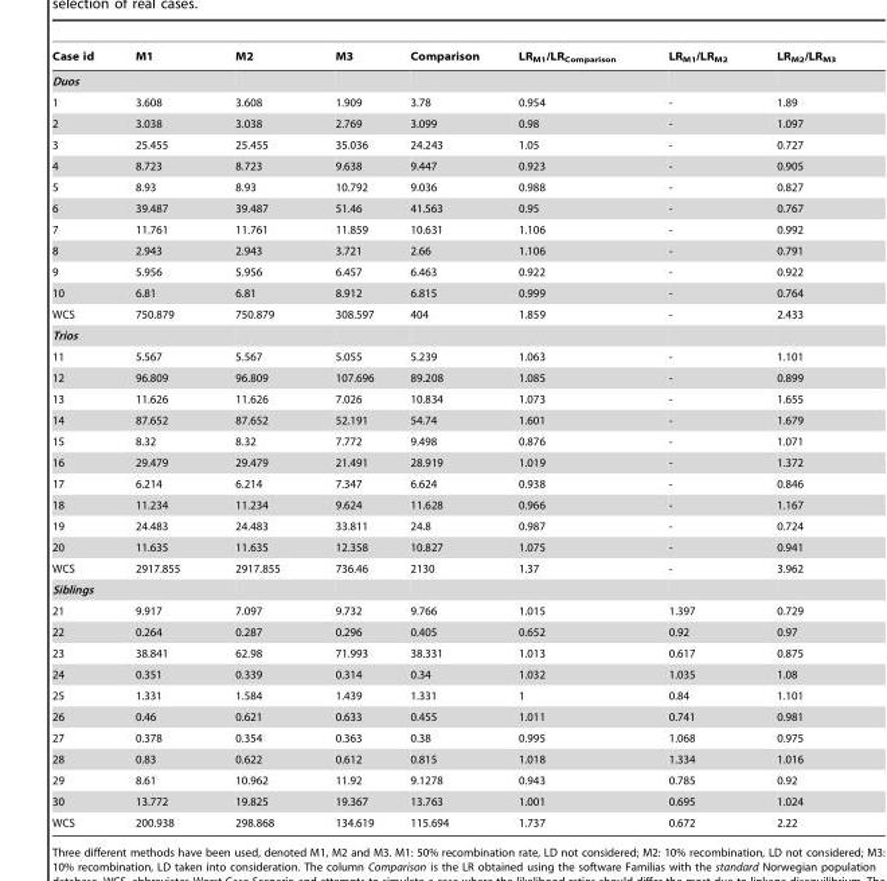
<table><thead><tr><td>Case id</td><td>M1</td><td>M2</td><td>M3</td><td>Comparison</td><td>LR<sub>M1</sub>/LR<sub>Comparison</sub></td><td>LR<sub>M1</sub>/LR<sub>M2</sub></td><td>LR<sub>M2</sub>/LR<sub>M3</sub></td></tr></thead><tbody><tr><td colspan="8">Duos</td></tr><tr><td>1</td><td>3.608</td><td>3.608</td><td>1.909</td><td>3.78</td><td>0.954</td><td>-</td><td>1.89</td></tr><tr><td>2</td><td>3.038</td><td>3.038</td><td>2.769</td><td>3.099</td><td>0.98</td><td>-</td><td>1.097</td></tr><tr><td>3</td><td>25.455</td><td>25.455</td><td>35.036</td><td>24.243</td><td>1.05</td><td>-</td><td>0.727</td></tr><tr><td>4</td><td>8.723</td><td>8.723</td><td>9.638</td><td>9.447</td><td>0.923</td><td>-</td><td>0.905</td></tr><tr><td>5</td><td>8.93</td><td>8.93</td><td>10.792</td><td>9.036</td><td>0.988</td><td>-</td><td>0.827</td></tr><tr><td>6</td><td>39.487</td><td>39.487</td><td>51.46</td><td>41.563</td><td>0.95</td><td>-</td><td>0.767</td></tr><tr><td>7</td><td>11.761</td><td>11.761</td><td>11.859</td><td>10.631</td><td>1.106</td><td>-</td><td>0.992</td></tr><tr><td>8</td><td>2.943</td><td>2.943</td><td>3.721</td><td>2.66</td><td>1.106</td><td>-</td><td>0.791</td></tr><tr><td>9</td><td>5.956</td><td>5.956</td><td>6.457</td><td>6.463</td><td>0.922</td><td>-</td><td>0.922</td></tr><tr><td>10</td><td>6.81</td><td>6.81</td><td>8.912</td><td>6.815</td><td>0.999</td><td>-</td><td>0.764</td></tr><tr><td>WCS</td><td>750.879</td><td>750.879</td><td>308.597</td><td>404</td><td>1.859</td><td>-</td><td>2.433</td></tr><tr><td colspan="8">Trios</td></tr><tr><td>11</td><td>5.567</td><td>5.567</td><td>5.055</td><td>5.239</td><td>1.063</td><td>-</td><td>1.101</td></tr><tr><td>12</td><td>96.809</td><td>96.809</td><td>107.696</td><td>89.208</td><td>1.085</td><td>-</td><td>0.899</td></tr><tr><td>13</td><td>11.626</td><td>11.626</td><td>7.026</td><td>10.834</td><td>1.073</td><td>-</td><td>1.655</td></tr><tr><td>14</td><td>87.652</td><td>87.652</td><td>52.191</td><td>54.74</td><td>1.601</td><td>-</td><td>1.679</td></tr><tr><td>15</td><td>8.32</td><td>8.32</td><td>7.772</td><td>9.498</td><td>0.876</td><td>-</td><td>1.071</td></tr><tr><td>16</td><td>29.479</td><td>29.479</td><td>21.491</td><td>28.919</td><td>1.019</td><td>-</td><td>1.372</td></tr><tr><td>17</td><td>6.214</td><td>6.214</td><td>7.347</td><td>6.624</td><td>0.938</td><td>-</td><td>0.846</td></tr><tr><td>18</td><td>11.234</td><td>11.234</td><td>9.624</td><td>11.628</td><td>0.966</td><td>-</td><td>1.167</td></tr><tr><td>19</td><td>24.483</td><td>24.483</td><td>33.811</td><td>24.8</td><td>0.987</td><td>-</td><td>0.724</td></tr><tr><td>20</td><td>11.635</td><td>11.635</td><td>12.358</td><td>10.827</td><td>1.075</td><td>-</td><td>0.941</td></tr><tr><td>WCS</td><td>2917.855</td><td>2917.855</td><td>736.46</td><td>2130</td><td>1.37</td><td>-</td><td>3.962</td></tr><tr><td colspan="8">Siblings</td></tr><tr><td>21</td><td>9.917</td><td>7.097</td><td>9.732</td><td>9.766</td><td>1.015</td><td>1.397</td><td>0.729</td></tr><tr><td>22</td><td>0.264</td><td>0.287</td><td>0.296</td><td>0.405</td><td>0.652</td><td>0.92</td><td>0.97</td></tr><tr><td>23</td><td>38.841</td><td>62.98</td><td>71.993</td><td>38.331</td><td>1.013</td><td>0.617</td><td>0.875</td></tr><tr><td>24</td><td>0.351</td><td>0.339</td><td>0.314</td><td>0.34</td><td>1.032</td><td>1.035</td><td>1.08</td></tr><tr><td>25</td><td>1.331</td><td>1.584</td><td>1.439</td><td>1.331</td><td>1</td><td>0.84</td><td>1.101</td></tr><tr><td>26</td><td>0.46</td><td>0.621</td><td>0.633</td><td>0.455</td><td>1.011</td><td>0.741</td><td>0.981</td></tr><tr><td>27</td><td>0.378</td><td>0.354</td><td>0.363</td><td>0.38</td><td>0.995</td><td>1.068</td><td>0.975</td></tr><tr><td>28</td><td>0.83</td><td>0.622</td><td>0.612</td><td>0.815</td><td>1.018</td><td>1.334</td><td>1.016</td></tr><tr><td>29</td><td>8.61</td><td>10.962</td><td>11.92</td><td>9.1278</td><td>0.943</td><td>0.785</td><td>0.92</td></tr><tr><td>30</td><td>13.772</td><td>19.825</td><td>19.367</td><td>13.763</td><td>1.001</td><td>0.695</td><td>1.024</td></tr><tr><td>WCS</td><td>200.938</td><td>298.868</td><td>134.619</td><td>115.694</td><td>1.737</td><td>0.672</td><td>2.22</td></tr></tbody></table>